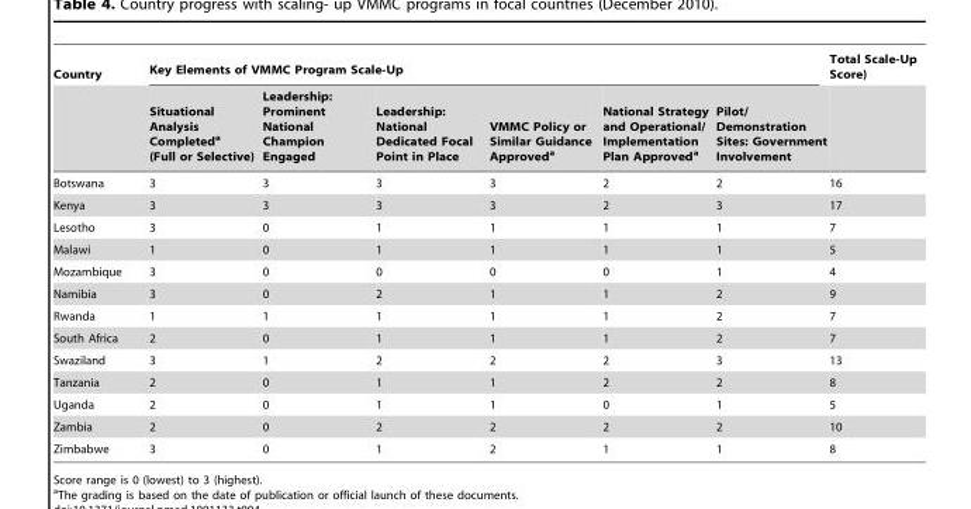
<table><thead><tr><td rowspan="2">Country</td><td colspan="6">Key Elements of VMMC Program Scale-Up</td><td rowspan="2">Total Scale-Up Score)</td></tr><tr><td>Situational Analysis Completed<sup>a</sup> (Full or Selective)</td><td>Leadership: Prominent National Champion Engaged</td><td>Leadership: National Dedicated Focal Point in Place</td><td>VMMC Policy or Similar Guidance Approved<sup>a</sup></td><td>National Strategy and Operational/ Implementation Plan Approved<sup>a</sup></td><td>Pilot/ Demonstration Sites: Government Involvement</td></tr></thead><tbody><tr><td>Botswana</td><td>3</td><td>3</td><td>3</td><td>3</td><td>2</td><td>2</td><td>16</td></tr><tr><td>Kenya</td><td>3</td><td>3</td><td>3</td><td>3</td><td>2</td><td>3</td><td>17</td></tr><tr><td>Lesotho</td><td>3</td><td>0</td><td>1</td><td>1</td><td>1</td><td>1</td><td>7</td></tr><tr><td>Malawi</td><td>1</td><td>0</td><td>1</td><td>1</td><td>1</td><td>1</td><td>5</td></tr><tr><td>Mozambique</td><td>3</td><td>0</td><td>0</td><td>0</td><td>0</td><td>1</td><td>4</td></tr><tr><td>Namibia</td><td>3</td><td>0</td><td>2</td><td>1</td><td>1</td><td>2</td><td>9</td></tr><tr><td>Rwanda</td><td>1</td><td>1</td><td>1</td><td>1</td><td>1</td><td>2</td><td>7</td></tr><tr><td>South Africa</td><td>2</td><td>0</td><td>1</td><td>1</td><td>1</td><td>2</td><td>7</td></tr><tr><td>Swaziland</td><td>3</td><td>1</td><td>2</td><td>2</td><td>2</td><td>3</td><td>13</td></tr><tr><td>Tanzania</td><td>2</td><td>0</td><td>1</td><td>1</td><td>2</td><td>2</td><td>8</td></tr><tr><td>Uganda</td><td>2</td><td>0</td><td>1</td><td>1</td><td>0</td><td>1</td><td>5</td></tr><tr><td>Zambia</td><td>2</td><td>0</td><td>2</td><td>2</td><td>2</td><td>2</td><td>10</td></tr><tr><td>Zimbabwe</td><td>3</td><td>0</td><td>1</td><td>2</td><td>1</td><td>1</td><td>8</td></tr></tbody></table>